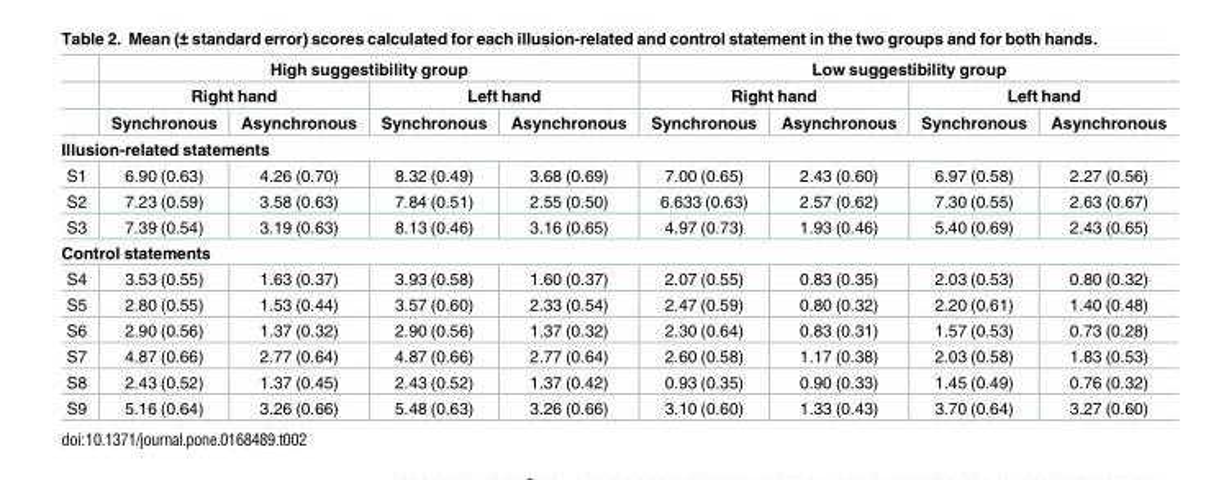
<table><thead><tr><td rowspan="3"></td><td colspan="4">High suggestibility group</td><td colspan="4">Low suggestibility group</td></tr><tr><td colspan="2">Right hand</td><td colspan="2">Left hand</td><td colspan="2">Right hand</td><td colspan="2">Left hand</td></tr><tr><td>Synchronous</td><td>Asynchronous</td><td>Synchronous</td><td>Asynchronous</td><td>Synchronous</td><td>Asynchronous</td><td>Synchronous</td><td>Asynchronous</td></tr></thead><tbody><tr><td colspan="9">Illusion-related statements</td></tr><tr><td>S1</td><td>6.90 (0.63)</td><td>4.26 (0.70)</td><td>8.32 (0.49)</td><td>3.68 (0.69)</td><td>7.00 (0.65)</td><td>2.43 (0.60)</td><td>6.97 (0.58)</td><td>2.27 (0.56)</td></tr><tr><td>S2</td><td>7.23 (0.59)</td><td>3.58 (0.63)</td><td>7.84 (0.51)</td><td>2.55 (0.50)</td><td>6.633 (0.63)</td><td>2.57 (0.62)</td><td>7.30 (0.55)</td><td>2.63 (0.67)</td></tr><tr><td>S3</td><td>7.39 (0.54)</td><td>3.19 (0.63)</td><td>8.13 (0.46)</td><td>3.16 (0.65)</td><td>4.97 (0.73)</td><td>1.93 (0.46)</td><td>5.40 (0.69)</td><td>2.43 (0.65)</td></tr><tr><td colspan="9">Control statements</td></tr><tr><td>S4</td><td>3.53 (0.55)</td><td>1.63 (0.37)</td><td>3.93 (0.58)</td><td>1.60 (0.37)</td><td>2.07 (0.55)</td><td>0.83 (0.35)</td><td>2.03 (0.53)</td><td>0.80 (0.32)</td></tr><tr><td>S5</td><td>2.80 (0.55)</td><td>1.53 (0.44)</td><td>3.57 (0.60)</td><td>2.33 (0.54)</td><td>2.47 (0.59)</td><td>0.80 (0.32)</td><td>2.20 (0.61)</td><td>1.40 (0.48)</td></tr><tr><td>S6</td><td>2.90 (0.56)</td><td>1.37 (0.32)</td><td>2.90 (0.56)</td><td>1.37 (0.32)</td><td>2.30 (0.64)</td><td>0.83 (0.31)</td><td>1.57 (0.53)</td><td>0.73 (0.28)</td></tr><tr><td>S7</td><td>4.87 (0.66)</td><td>2.77 (0.64)</td><td>4.87 (0.66)</td><td>2.77 (0.64)</td><td>2.60 (0.58)</td><td>1.17 (0.38)</td><td>2.03 (0.58)</td><td>1.83 (0.53)</td></tr><tr><td>S8</td><td>2.43 (0.52)</td><td>1.37 (0.45)</td><td>2.43 (0.52)</td><td>1.37 (0.42)</td><td>0.93 (0.35)</td><td>0.90 (0.33)</td><td>1.45 (0.49)</td><td>0.76 (0.32)</td></tr><tr><td>S9</td><td>5.16 (0.64)</td><td>3.26 (0.66)</td><td>5.48 (0.63)</td><td>3.26 (0.66)</td><td>3.10 (0.60)</td><td>1.33 (0.43)</td><td>3.70 (0.64)</td><td>3.27 (0.60)</td></tr></tbody></table>